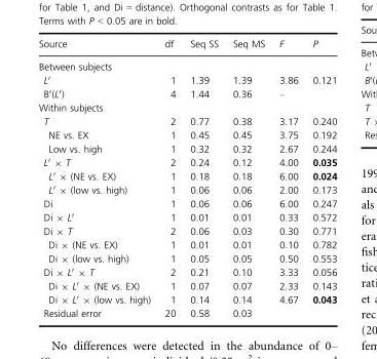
<table><thead><tr><td>Source</td><td>df</td><td>Seq SS</td><td>Seq MS</td><td>F</td><td>P</td></tr></thead><tbody><tr><td colspan="6">Between subjects</td></tr><tr><td>L′</td><td>1</td><td>1.39</td><td>1.39</td><td>3.86</td><td>0.121</td></tr><tr><td>B′(L′)</td><td>4</td><td>1.44</td><td>0.36</td><td>–</td><td></td></tr><tr><td colspan="6">Within subjects</td></tr><tr><td>T</td><td>2</td><td>0.77</td><td>0.38</td><td>3.17</td><td>0.240</td></tr><tr><td>NE vs. EX</td><td>1</td><td>0.45</td><td>0.45</td><td>3.75</td><td>0.192</td></tr><tr><td>Low vs. high</td><td>1</td><td>0.32</td><td>0.32</td><td>2.67</td><td>0.244</td></tr><tr><td>L′ × T</td><td>2</td><td>0.24</td><td>0.12</td><td>4.00</td><td>0.035</td></tr><tr><td>L′ × (NE vs. EX)</td><td>1</td><td>0.18</td><td>0.18</td><td>6.00</td><td>0.024</td></tr><tr><td>L′ × (low vs. high)</td><td>1</td><td>0.06</td><td>0.06</td><td>2.00</td><td>0.173</td></tr><tr><td>Di</td><td>1</td><td>0.06</td><td>0.06</td><td>6.00</td><td>0.247</td></tr><tr><td>Di × L′</td><td>1</td><td>0.01</td><td>0.01</td><td>0.33</td><td>0.572</td></tr><tr><td>Di × T</td><td>2</td><td>0.06</td><td>0.03</td><td>0.30</td><td>0.771</td></tr><tr><td>Di × (NE vs. EX)</td><td>1</td><td>0.01</td><td>0.01</td><td>0.10</td><td>0.782</td></tr><tr><td>Di × (low vs. high)</td><td>1</td><td>0.05</td><td>0.05</td><td>0.50</td><td>0.553</td></tr><tr><td>Di × L′ × T</td><td>2</td><td>0.21</td><td>0.10</td><td>3.33</td><td>0.056</td></tr><tr><td>Di × L′ × (NE vs. EX)</td><td>1</td><td>0.07</td><td>0.07</td><td>2.33</td><td>0.143</td></tr><tr><td>Di × L′ × (low vs. high)</td><td>1</td><td>0.14</td><td>0.14</td><td>4.67</td><td>0.043</td></tr><tr><td>Residual error</td><td>20</td><td>0.58</td><td>0.03</td><td></td><td></td></tr></tbody></table>